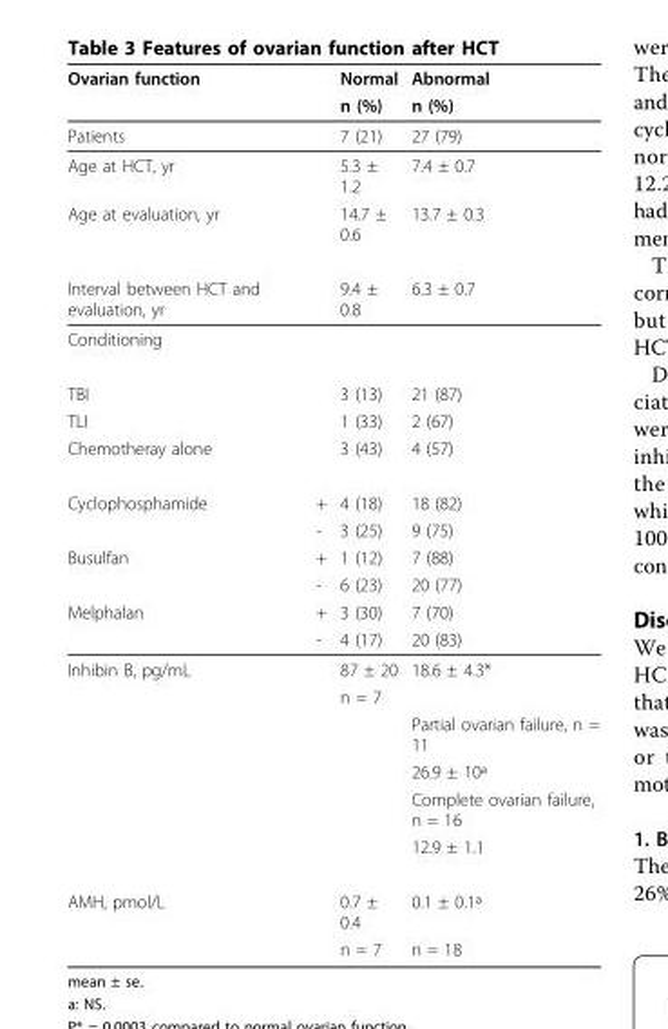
<table><thead><tr><td rowspan="2">Ovarian function</td><td rowspan="2"></td><td rowspan="2">Normal n (%)</td><td rowspan="2">Abnormal n (%)</td></tr><tr></tr></thead><tbody><tr><td>Patients</td><td></td><td>7 (21)</td><td>27 (79)</td></tr><tr><td>Age at HCT, yr</td><td></td><td>5.3 ± 1.2</td><td>7.4 ± 0.7</td></tr><tr><td>Age at evaluation, yr</td><td></td><td>14.7 ± 0.6</td><td>13.7 ± 0.3</td></tr><tr><td>Interval between HCT and evaluation, yr</td><td></td><td>9.4 ± 0.8</td><td>6.3 ± 0.7</td></tr><tr><td colspan="4">Conditioning</td></tr><tr><td>TBI</td><td></td><td>3 (13)</td><td>21 (87)</td></tr><tr><td>TLI</td><td></td><td>1 (33)</td><td>2 (67)</td></tr><tr><td>Chemotheray alone</td><td></td><td>3 (43)</td><td>4 (57)</td></tr><tr><td rowspan="2">Cyclophosphamide</td><td>+</td><td>4 (18)</td><td>18 (82)</td></tr><tr><td>-</td><td>3 (25)</td><td>9 (75)</td></tr><tr><td rowspan="2">Busulfan</td><td>+</td><td>1 (12)</td><td>7 (88)</td></tr><tr><td>-</td><td>6 (23)</td><td>20 (77)</td></tr><tr><td rowspan="2">Melphalan</td><td>+</td><td>3 (30)</td><td>7 (70)</td></tr><tr><td>-</td><td>4 (17)</td><td>20 (83)</td></tr><tr><td rowspan="6">Inhibin B, pg/mL</td><td></td><td>87 ± 20</td><td>18.6 ± 4.3*</td></tr><tr><td></td><td>n = 7</td><td></td></tr><tr><td></td><td></td><td>Partial ovarian failure, n = 11</td></tr><tr><td></td><td></td><td>26.9 ± 10ª</td></tr><tr><td></td><td></td><td>Complete ovarian failure, n = 16</td></tr><tr><td></td><td></td><td>12.9 ± 1.1</td></tr><tr><td rowspan="2">AMH, pmol/L</td><td></td><td>0.7 ± 0.4</td><td>0.1 ± 0.1ª</td></tr><tr><td></td><td>n = 7</td><td>n = 18</td></tr></tbody></table>